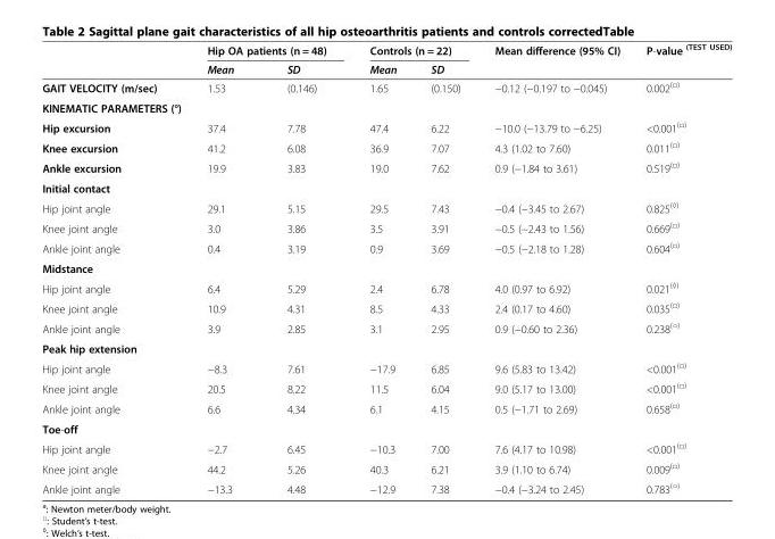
<table><thead><tr><td rowspan="2"></td><td colspan="2">Hip OA patients (n = 48)</td><td colspan="2">Controls (n = 22)</td><td rowspan="2">Mean difference (95% CI)</td><td rowspan="2">P-value <sup>(TEST USED)</sup></td></tr><tr><td>Mean</td><td>SD</td><td>Mean</td><td>SD</td></tr></thead><tbody><tr><td>GAIT VELOCITY (m/sec)</td><td>1.53</td><td>(0.146)</td><td>1.65</td><td>(0.150)</td><td>−0.12 (−0.197 to −0.045)</td><td>0.002<sup>(□)</sup></td></tr><tr><td colspan="7">KINEMATIC PARAMETERS (°)</td></tr><tr><td>Hip excursion</td><td>37.4</td><td>7.78</td><td>47.4</td><td>6.22</td><td>−10.0 (−13.79 to −6.25)</td><td>&lt;0.001<sup>(□)</sup></td></tr><tr><td>Knee excursion</td><td>41.2</td><td>6.08</td><td>36.9</td><td>7.07</td><td>4.3 (1.02 to 7.60)</td><td>0.011<sup>(□)</sup></td></tr><tr><td>Ankle excursion</td><td>19.9</td><td>3.83</td><td>19.0</td><td>7.62</td><td>0.9 (−1.84 to 3.61)</td><td>0.519<sup>(□)</sup></td></tr><tr><td colspan="7">Initial contact</td></tr><tr><td>Hip joint angle</td><td>29.1</td><td>5.15</td><td>29.5</td><td>7.43</td><td>−0.4 (−3.45 to 2.67)</td><td>0.825<sup>(◊)</sup></td></tr><tr><td>Knee joint angle</td><td>3.0</td><td>3.86</td><td>3.5</td><td>3.91</td><td>−0.5 (−2.43 to 1.56)</td><td>0.669<sup>(□)</sup></td></tr><tr><td>Ankle joint angle</td><td>0.4</td><td>3.19</td><td>0.9</td><td>3.69</td><td>−0.5 (−2.18 to 1.28)</td><td>0.604<sup>(□)</sup></td></tr><tr><td colspan="7">Midstance</td></tr><tr><td>Hip joint angle</td><td>6.4</td><td>5.29</td><td>2.4</td><td>6.78</td><td>4.0 (0.97 to 6.92)</td><td>0.021<sup>(◊)</sup></td></tr><tr><td>Knee joint angle</td><td>10.9</td><td>4.31</td><td>8.5</td><td>4.33</td><td>2.4 (0.17 to 4.60)</td><td>0.035<sup>(□)</sup></td></tr><tr><td>Ankle joint angle</td><td>3.9</td><td>2.85</td><td>3.1</td><td>2.95</td><td>0.9 (−0.60 to 2.36)</td><td>0.238<sup>(○)</sup></td></tr><tr><td colspan="7">Peak hip extension</td></tr><tr><td>Hip joint angle</td><td>−8.3</td><td>7.61</td><td>−17.9</td><td>6.85</td><td>9.6 (5.83 to 13.42)</td><td>&lt;0.001<sup>(□)</sup></td></tr><tr><td>Knee joint angle</td><td>20.5</td><td>8.22</td><td>11.5</td><td>6.04</td><td>9.0 (5.17 to 13.00)</td><td>&lt;0.001<sup>(□)</sup></td></tr><tr><td>Ankle joint angle</td><td>6.6</td><td>4.34</td><td>6.1</td><td>4.15</td><td>0.5 (−1.71 to 2.69)</td><td>0.658<sup>(□)</sup></td></tr><tr><td colspan="7">Toe-off</td></tr><tr><td>Hip joint angle</td><td>−2.7</td><td>6.45</td><td>−10.3</td><td>7.00</td><td>7.6 (4.17 to 10.98)</td><td>&lt;0.001<sup>(□)</sup></td></tr><tr><td>Knee joint angle</td><td>44.2</td><td>5.26</td><td>40.3</td><td>6.21</td><td>3.9 (1.10 to 6.74)</td><td>0.009<sup>(□)</sup></td></tr><tr><td>Ankle joint angle</td><td>−13.3</td><td>4.48</td><td>−12.9</td><td>7.38</td><td>−0.4 (−3.24 to 2.45)</td><td>0.783<sup>(○)</sup></td></tr></tbody></table>